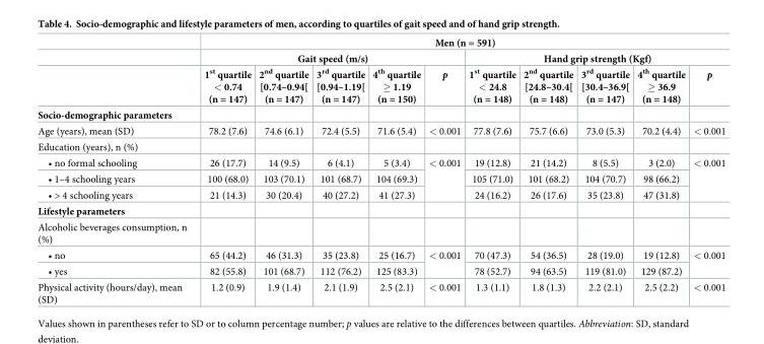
<table><thead><tr><td rowspan="3"></td><td colspan="10">Men (n = 591)</td></tr><tr><td colspan="5">Gait speed (m/s)</td><td colspan="5">Hand grip strength (Kgf)</td></tr><tr><td>1<sup>st</sup> quartile &lt; 0.74 (n = 147)</td><td>2<sup>nd</sup> quartile [0.74–0.94[ (n = 147)</td><td>3<sup>rd</sup> quartile [0.94–1.19[ (n = 147)</td><td>4<sup>th</sup> quartile ≥ 1.19 (n = 150)</td><td>p</td><td>1<sup>st</sup> quartile &lt; 24.8 (n = 148)</td><td>2<sup>nd</sup> quartile [24.8–30.4[ (n = 148)</td><td>3<sup>rd</sup> quartile [30.4–36.9[ (n = 147)</td><td>4<sup>th</sup> quartile ≥ 36.9 (n = 148)</td><td>p</td></tr></thead><tbody><tr><td colspan="11">Socio-demographic parameters</td></tr><tr><td>Age (years), mean (SD)</td><td>78.2 (7.6)</td><td>74.6 (6.1)</td><td>72.4 (5.5)</td><td>71.6 (5.4)</td><td>&lt; 0.001</td><td>77.8 (7.6)</td><td>75.7 (6.6)</td><td>73.0 (5.3)</td><td>70.2 (4.4)</td><td>&lt; 0.001</td></tr><tr><td colspan="11">Education (years), n (%)</td></tr><tr><td>• no formal schooling</td><td>26 (17.7)</td><td>14 (9.5)</td><td>6 (4.1)</td><td>5 (3.4)</td><td rowspan="3">&lt; 0.001</td><td>19 (12.8)</td><td>21 (14.2)</td><td>8 (5.5)</td><td>3 (2.0)</td><td rowspan="3">&lt; 0.001</td></tr><tr><td>• 1–4 schooling years</td><td>100 (68.0)</td><td>103 (70.1)</td><td>101 (68.7)</td><td>104 (69.3)</td><td>105 (71.0)</td><td>101 (68.2)</td><td>104 (70.7)</td><td>98 (66.2)</td></tr><tr><td>• &gt; 4 schooling years</td><td>21 (14.3)</td><td>30 (20.4)</td><td>40 (27.2)</td><td>41 (27.3)</td><td>24 (16.2)</td><td>26 (17.6)</td><td>35 (23.8)</td><td>47 (31.8)</td></tr><tr><td colspan="11">Lifestyle parameters</td></tr><tr><td colspan="11">Alcoholic beverages consumption, n (%)</td></tr><tr><td>• no</td><td>65 (44.2)</td><td>46 (31.3)</td><td>35 (23.8)</td><td>25 (16.7)</td><td rowspan="2">&lt; 0.001</td><td>70 (47.3)</td><td>54 (36.5)</td><td>28 (19.0)</td><td>19 (12.8)</td><td rowspan="2">&lt; 0.001</td></tr><tr><td>• yes</td><td>82 (55.8)</td><td>101 (68.7)</td><td>112 (76.2)</td><td>125 (83.3)</td><td>78 (52.7)</td><td>94 (63.5)</td><td>119 (81.0)</td><td>129 (87.2)</td></tr><tr><td>Physical activity (hours/day), mean (SD)</td><td>1.2 (0.9)</td><td>1.9 (1.4)</td><td>2.1 (1.9)</td><td>2.5 (2.1)</td><td>&lt; 0.001</td><td>1.3 (1.1)</td><td>1.8 (1.3)</td><td>2.2 (2.1)</td><td>2.5 (2.2)</td><td>&lt; 0.001</td></tr></tbody></table>